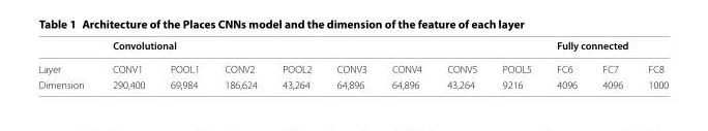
<table><thead><tr><td rowspan="2">Layer</td><td colspan="8">Convolutional</td><td colspan="3">Fully connected</td></tr><tr><td>CONV1</td><td>POOL1</td><td>CONV2</td><td>POOL2</td><td>CONV3</td><td>CONV4</td><td>CONV5</td><td>POOL5</td><td>FC6</td><td>FC7</td><td>FC8</td></tr></thead><tbody><tr><td>Dimension</td><td>290,400</td><td>69,984</td><td>186,624</td><td>43,264</td><td>64,896</td><td>64,896</td><td>43,264</td><td>9216</td><td>4096</td><td>4096</td><td>1000</td></tr></tbody></table>